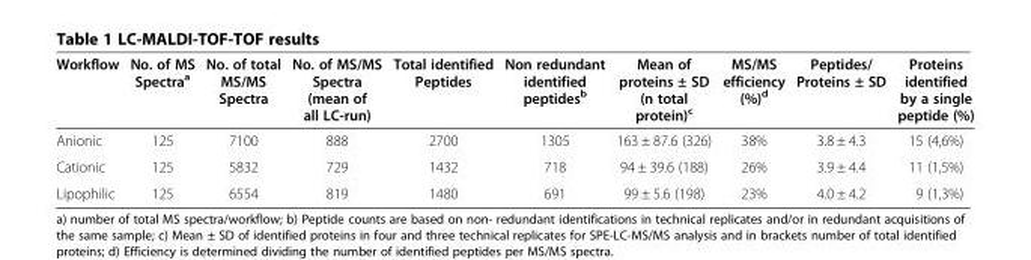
<table><thead><tr><td>Workflow</td><td>No. of MS Spectra<sup>a</sup></td><td>No. of total MS/MS Spectra</td><td>No. of MS/MS Spectra (mean of all LC-run)</td><td>Total identified Peptides</td><td>Non redundant identified peptides<sup>b</sup></td><td>Mean of proteins ± SD (n total protein)<sup>c</sup></td><td>MS/MS efficiency (%)<sup>d</sup></td><td>Peptides/ Proteins ± SD</td><td>Proteins identified by a single peptide (%)</td></tr></thead><tbody><tr><td>Anionic</td><td>125</td><td>7100</td><td>888</td><td>2700</td><td>1305</td><td>163 ± 87.6 (326)</td><td>38%</td><td>3.8 ± 4.3</td><td>15 (4,6%)</td></tr><tr><td>Cationic</td><td>125</td><td>5832</td><td>729</td><td>1432</td><td>718</td><td>94 ± 39.6 (188)</td><td>26%</td><td>3.9 ± 4.4</td><td>11 (1,5%)</td></tr><tr><td>Lipophilic</td><td>125</td><td>6554</td><td>819</td><td>1480</td><td>691</td><td>99 ± 5.6 (198)</td><td>23%</td><td>4.0 ± 4.2</td><td>9 (1,3%)</td></tr></tbody></table>